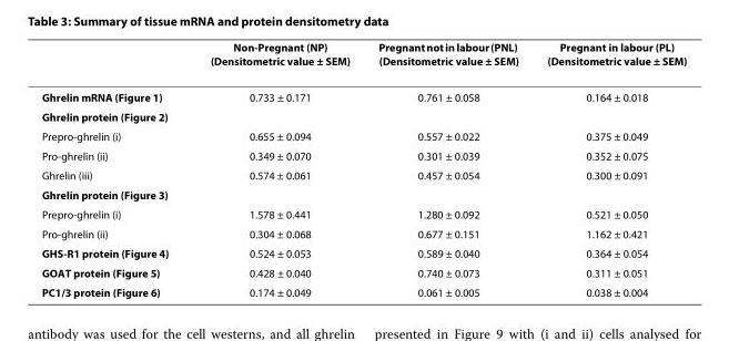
<table><thead><tr><td></td><td>Non-Pregnant (NP) (Densitometric value ± SEM)</td><td>Pregnant not in labour (PNL) (Densitometric value ± SEM)</td><td>Pregnant in labour (PL) (Densitometric value ± SEM)</td></tr></thead><tbody><tr><td>Ghrelin mRNA (Figure 1)</td><td>0.733 ± 0.171</td><td>0.761 ± 0.058</td><td>0.164 ± 0.018</td></tr><tr><td colspan="4">Ghrelin protein (Figure 2)</td></tr><tr><td>Prepro-ghrelin (i)</td><td>0.655 ± 0.094</td><td>0.557 ± 0.022</td><td>0.375 ± 0.049</td></tr><tr><td>Pro-ghrelin (ii)</td><td>0.349 ± 0.070</td><td>0.301 ± 0.039</td><td>0.352 ± 0.075</td></tr><tr><td>Ghrelin (iii)</td><td>0.574 ± 0.061</td><td>0.457 ± 0.054</td><td>0.300 ± 0.091</td></tr><tr><td colspan="4">Ghrelin protein (Figure 3)</td></tr><tr><td>Prepro-ghrelin (i)</td><td>1.578 ± 0.441</td><td>1.280 ± 0.092</td><td>0.521 ± 0.050</td></tr><tr><td>Pro-ghrelin (ii)</td><td>0.304 ± 0.068</td><td>0.677 ± 0.151</td><td>1.162 ± 0.421</td></tr><tr><td>GHS-R1 protein (Figure 4)</td><td>0.524 ± 0.053</td><td>0.589 ± 0.040</td><td>0.364 ± 0.054</td></tr><tr><td>GOAT protein (Figure 5)</td><td>0.428 ± 0.040</td><td>0.740 ± 0.073</td><td>0.311 ± 0.051</td></tr><tr><td>PC1/3 protein (Figure 6)</td><td>0.174 ± 0.049</td><td>0.061 ± 0.005</td><td>0.038 ± 0.004</td></tr></tbody></table>